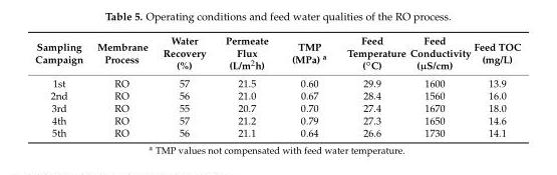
<table><thead><tr><td>Sampling Campaign</td><td>Membrane Process</td><td>Water Recovery (%)</td><td>Permeate Flux (L/m<sup>2</sup>h)</td><td>TMP (MPa) <sup>a</sup></td><td>Feed Temperature (◦C)</td><td>Feed Conductivity (µS/cm)</td><td>Feed TOC (mg/L)</td></tr></thead><tbody><tr><td>1st</td><td>RO</td><td>57</td><td>21.5</td><td>0.60</td><td>29.9</td><td>1600</td><td>13.9</td></tr><tr><td>2nd</td><td>RO</td><td>56</td><td>21.0</td><td>0.67</td><td>28.4</td><td>1560</td><td>16.0</td></tr><tr><td>3rd</td><td>RO</td><td>55</td><td>20.7</td><td>0.70</td><td>27.4</td><td>1670</td><td>18.0</td></tr><tr><td>4th</td><td>RO</td><td>57</td><td>21.2</td><td>0.79</td><td>27.3</td><td>1650</td><td>14.6</td></tr><tr><td>5th</td><td>RO</td><td>56</td><td>21.1</td><td>0.64</td><td>26.6</td><td>1730</td><td>14.1</td></tr></tbody></table>